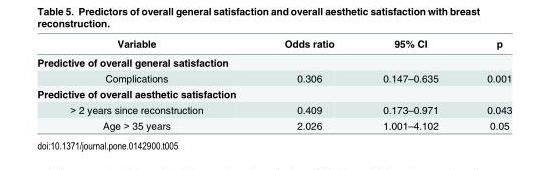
<table><thead><tr><td>Variable</td><td>Odds ratio</td><td>95% CI</td><td>p</td></tr></thead><tbody><tr><td colspan="4">Predictive of overall general satisfaction</td></tr><tr><td>Complications</td><td>0.306</td><td>0.147–0.635</td><td>0.001</td></tr><tr><td colspan="4">Predictive of overall aesthetic satisfaction</td></tr><tr><td>&gt; 2 years since reconstruction</td><td>0.409</td><td>0.173–0.971</td><td>0.043</td></tr><tr><td>Age &gt; 35 years</td><td>2.026</td><td>1.001–4.102</td><td>0.05</td></tr></tbody></table>